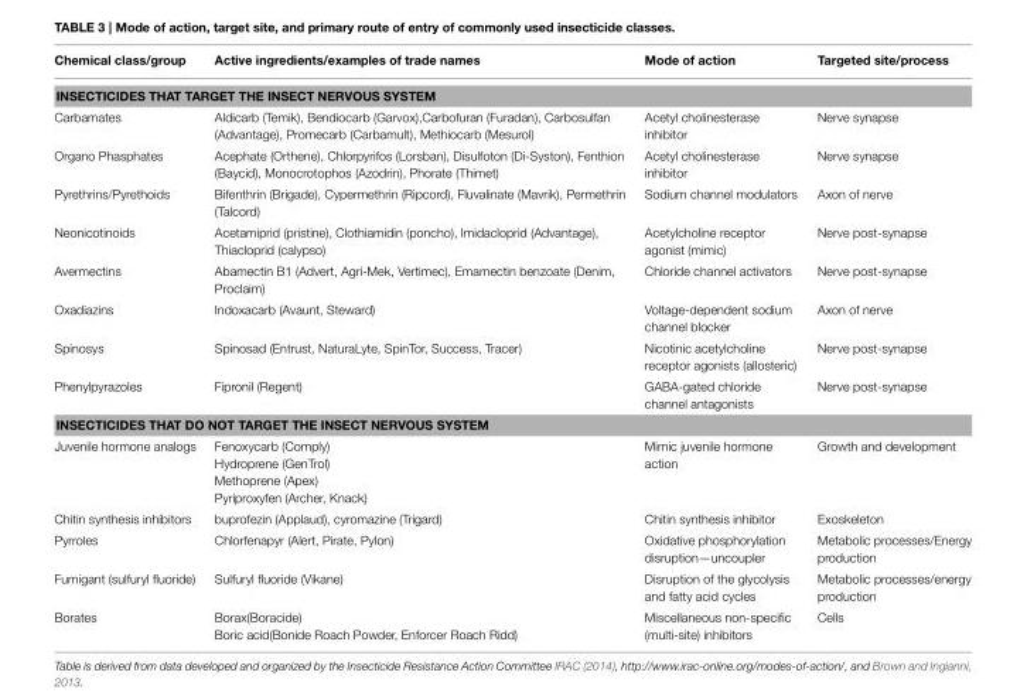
<table><thead><tr><td>Chemical class/group</td><td>Active ingredients/examples of trade names</td><td>Mode of action</td><td>Targeted site/process</td></tr></thead><tbody><tr><td colspan="4">INSECTICIDES THAT TARGET THE INSECT NERVOUS SYSTEM</td></tr><tr><td>Carbamates</td><td>Aldicarb (Temik), Bendiocarb (Garvox),Carbofuran (Furadan), Carbosulfan (Advantage), Promecarb (Carbamult), Methiocarb (Mesurol)</td><td>Acetyl cholinesterase inhibitor</td><td>Nerve synapse</td></tr><tr><td>Organo Phasphates</td><td>Acephate (Orthene), Chlorpyrifos (Lorsban), Disulfoton (Di-Syston), Fenthion (Baycid), Monocrotophos (Azodrin), Phorate (Thimet)</td><td>Acetyl cholinesterase inhibitor</td><td>Nerve synapse</td></tr><tr><td>Pyrethrins/Pyrethoids</td><td>Bifenthrin (Brigade), Cypermethrin (Ripcord), Fluvalinate (Mavrik), Permethrin (Talcord)</td><td>Sodium channel modulators</td><td>Axon of nerve</td></tr><tr><td>Neonicotinoids</td><td>Acetamiprid (pristine), Clothiamidin (poncho), Imidacloprid (Advantage), Thiacloprid (calypso)</td><td>Acetylcholine receptor agonist (mimic)</td><td>Nerve post-synapse</td></tr><tr><td>Avermectins</td><td>Abamectin B1 (Advert, Agri-Mek, Vertimec), Emamectin benzoate (Denim, Proclaim)</td><td>Chloride channel activators</td><td>Nerve post-synapse</td></tr><tr><td>Oxadiazins</td><td>Indoxacarb (Avaunt, Steward)</td><td>Voltage-dependent sodium channel blocker</td><td>Axon of nerve</td></tr><tr><td>Spinosys</td><td>Spinosad (Entrust, NaturaLyte, SpinTor, Success, Tracer)</td><td>Nicotinic acetylcholine receptor agonists (allosteric)</td><td>Nerve post-synapse</td></tr><tr><td>Phenylpyrazoles</td><td>Fipronil (Regent)</td><td>GABA-gated chloride channel antagonists</td><td>Nerve post-synapse</td></tr><tr><td colspan="4">INSECTICIDES THAT DO NOT TARGET THE INSECT NERVOUS SYSTEM</td></tr><tr><td>Juvenile hormone analogs</td><td>Fenoxycarb (Comply) Hydroprene (GenTrol) Methoprene (Apex) Pyriproxyfen (Archer, Knack)</td><td>Mimic juvenile hormone action</td><td>Growth and development</td></tr><tr><td>Chitin synthesis inhibitors</td><td>buprofezin (Applaud), cyromazine (Trigard)</td><td>Chitin synthesis inhibitor</td><td>Exoskeleton</td></tr><tr><td>Pyrroles</td><td>Chlorfenapyr (Alert, Pirate, Pylon)</td><td>Oxidative phosphorylation disruption—uncoupler</td><td>Metabolic processes/Energy production</td></tr><tr><td>Fumigant (sulfuryl fluoride)</td><td>Sulfuryl fluoride (Vikane)</td><td>Disruption of the glycolysis and fatty acid cycles</td><td>Metabolic processes/energy production</td></tr><tr><td>Borates</td><td>Borax(Boracide) Boric acid(Bonide Roach Powder, Enforcer Roach Ridd)</td><td>Miscellaneous non-specific (multi-site) inhibitors</td><td>Cells</td></tr></tbody></table>